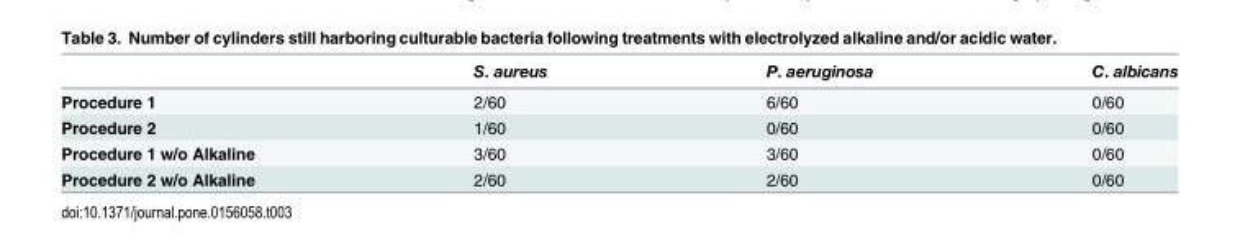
<table><thead><tr><td></td><td>S. aureus</td><td>P. aeruginosa</td><td>C. albicans</td></tr></thead><tbody><tr><td>Procedure 1</td><td>2/60</td><td>6/60</td><td>0/60</td></tr><tr><td>Procedure 2</td><td>1/60</td><td>0/60</td><td>0/60</td></tr><tr><td>Procedure 1 w/o Alkaline</td><td>3/60</td><td>3/60</td><td>0/60</td></tr><tr><td>Procedure 2 w/o Alkaline</td><td>2/60</td><td>2/60</td><td>0/60</td></tr></tbody></table>